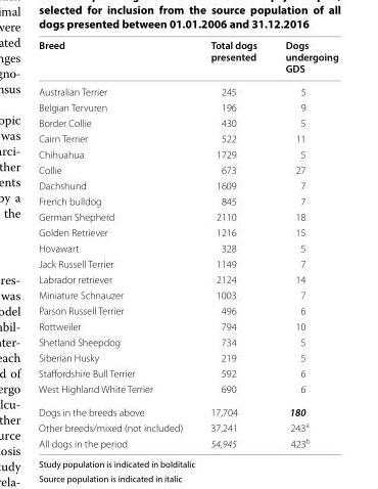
<table><thead><tr><td>Breed</td><td>Total dogs presented</td><td>Dogs undergoing GDS</td></tr></thead><tbody><tr><td>Australian Terrier</td><td>245</td><td>5</td></tr><tr><td>Belgian Tervuren</td><td>196</td><td>9</td></tr><tr><td>Border Collie</td><td>430</td><td>5</td></tr><tr><td>Cairn Terrier</td><td>522</td><td>11</td></tr><tr><td>Chihuahua</td><td>1729</td><td>5</td></tr><tr><td>Collie</td><td>673</td><td>27</td></tr><tr><td>Dachshund</td><td>1609</td><td>7</td></tr><tr><td>French bulldog</td><td>845</td><td>7</td></tr><tr><td>German Shepherd</td><td>2110</td><td>18</td></tr><tr><td>Golden Retriever</td><td>1216</td><td>15</td></tr><tr><td>Hovawart</td><td>328</td><td>5</td></tr><tr><td>Jack Russell Terrier</td><td>1149</td><td>7</td></tr><tr><td>Labrador retriever</td><td>2124</td><td>14</td></tr><tr><td>Miniature Schnauzer</td><td>1003</td><td>7</td></tr><tr><td>Parson Russell Terrier</td><td>496</td><td>6</td></tr><tr><td>Rottweiler</td><td>794</td><td>10</td></tr><tr><td>Shetland Sheepdog</td><td>734</td><td>5</td></tr><tr><td>Siberian Husky</td><td>219</td><td>5</td></tr><tr><td>Staffordshire Bull Terrier</td><td>592</td><td>6</td></tr><tr><td>West Highland White Terrier</td><td>690</td><td>6</td></tr><tr><td>Dogs in the breeds above</td><td>17,704</td><td>180</td></tr><tr><td>Other breeds/mixed (not included)</td><td>37,241</td><td>243<sup>a</sup></td></tr><tr><td>All dogs in the period</td><td>54,945</td><td>423<sup>b</sup></td></tr></tbody></table>